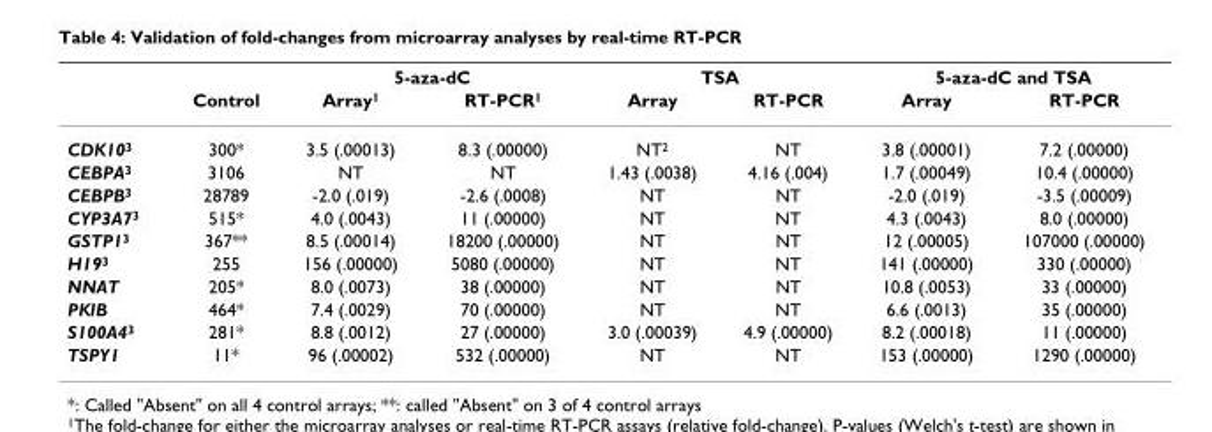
<table><thead><tr><td rowspan="2"></td><td rowspan="2">Control</td><td colspan="2">5-aza-dC</td><td colspan="2">TSA</td><td colspan="2">5-aza-dC and TSA</td></tr><tr><td>Array1</td><td>RT-PCR1</td><td>Array</td><td>RT-PCR</td><td>Array</td><td>RT-PCR</td></tr></thead><tbody><tr><td>CDK103</td><td>300*</td><td>3.5 (.00013)</td><td>8.3 (.00000)</td><td>NT2</td><td>NT</td><td>3.8 (.00001)</td><td>7.2 (.00000)</td></tr><tr><td>CEBPA3</td><td>3106</td><td>NT</td><td>NT</td><td>1.43 (.0038)</td><td>4.16 (.004)</td><td>1.7 (.00049)</td><td>10.4 (.00000)</td></tr><tr><td>CEBPB3</td><td>28789</td><td>-2.0 (.019)</td><td>-2.6 (.0008)</td><td>NT</td><td>NT</td><td>-2.0 (.019)</td><td>-3.5 (.00009)</td></tr><tr><td>CYP3A73</td><td>515*</td><td>4.0 (.0043)</td><td>11 (.00000)</td><td>NT</td><td>NT</td><td>4.3 (.0043)</td><td>8.0 (.00000)</td></tr><tr><td>GSTP13</td><td>367**</td><td>8.5 (.00014)</td><td>18200 (.00000)</td><td>NT</td><td>NT</td><td>12 (.00005)</td><td>107000 (.00000)</td></tr><tr><td>H193</td><td>255</td><td>156 (.00000)</td><td>5080 (.00000)</td><td>NT</td><td>NT</td><td>141 (.00000)</td><td>330 (.00000)</td></tr><tr><td>NNAT</td><td>205*</td><td>8.0 (.0073)</td><td>38 (.00000)</td><td>NT</td><td>NT</td><td>10.8 (.0053)</td><td>33 (.00000)</td></tr><tr><td>PKIB</td><td>464*</td><td>7.4 (.0029)</td><td>70 (.00000)</td><td>NT</td><td>NT</td><td>6.6 (.0013)</td><td>35 (.00000)</td></tr><tr><td>S100A43</td><td>281*</td><td>8.8 (.0012)</td><td>27 (.00000)</td><td>3.0 (.00039)</td><td>4.9 (.00000)</td><td>8.2 (.00018)</td><td>11 (.00000)</td></tr><tr><td>TSPY1</td><td>11*</td><td>96 (.00002)</td><td>532 (.00000)</td><td>NT</td><td>NT</td><td>153 (.00000)</td><td>1290 (.00000)</td></tr></tbody></table>